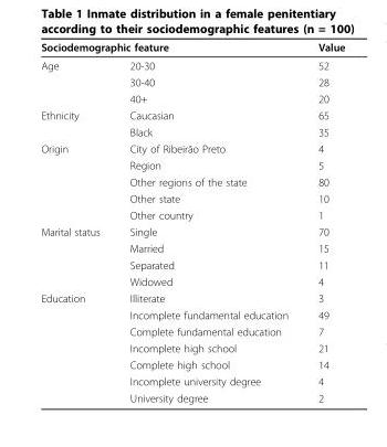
<table><thead><tr><td colspan="2">Sociodemographic feature</td><td rowspan="2">Value 52</td></tr><tr><td>Age</td><td>20-30</td></tr></thead><tbody><tr><td></td><td>30-40</td><td>28</td></tr><tr><td></td><td>40+</td><td>20</td></tr><tr><td rowspan="2">Ethnicity</td><td>Caucasian</td><td>65</td></tr><tr><td>Black</td><td>35</td></tr><tr><td rowspan="5">Origin</td><td>City of Ribeirão Preto</td><td>4</td></tr><tr><td>Region</td><td>5</td></tr><tr><td>Other regions of the state</td><td>80</td></tr><tr><td>Other state</td><td>10</td></tr><tr><td>Other country</td><td>1</td></tr><tr><td rowspan="4">Marital status</td><td>Single</td><td>70</td></tr><tr><td>Married</td><td>15</td></tr><tr><td>Separated</td><td>11</td></tr><tr><td>Widowed</td><td>4</td></tr><tr><td rowspan="7">Education</td><td>Illiterate</td><td>3</td></tr><tr><td>Incomplete fundamental education</td><td>49</td></tr><tr><td>Complete fundamental education</td><td>7</td></tr><tr><td>Incomplete high school</td><td>21</td></tr><tr><td>Complete high school</td><td>14</td></tr><tr><td>Incomplete university degree</td><td>4</td></tr><tr><td>University degree</td><td>2</td></tr></tbody></table>